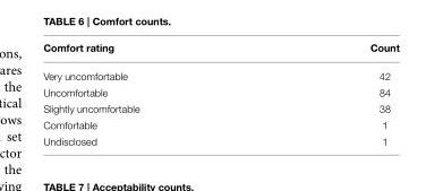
<table><thead><tr><td>Comfort rating</td><td>Count</td></tr></thead><tbody><tr><td>Very uncomfortable</td><td>42</td></tr><tr><td>Uncomfortable</td><td>84</td></tr><tr><td>Slightly uncomfortable</td><td>38</td></tr><tr><td>Comfortable</td><td>1</td></tr><tr><td>Undisclosed</td><td>1</td></tr></tbody></table>